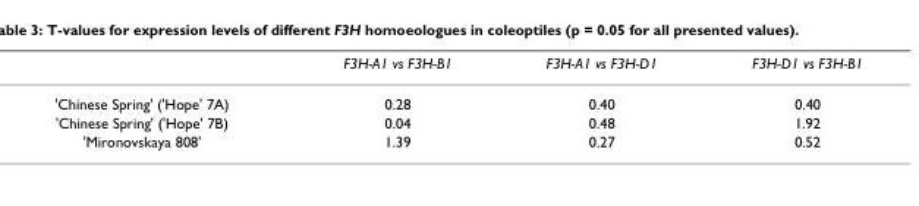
<table><thead><tr><td></td><td>F3H-A1 vs F3H-B1</td><td>F3H-A1 vs F3H-D1</td><td>F3H-D1 vs F3H-B1</td></tr></thead><tbody><tr><td>&#x27;Chinese Spring&#x27; (&#x27;Hope&#x27; 7A)</td><td>0.28</td><td>0.40</td><td>0.40</td></tr><tr><td>&#x27;Chinese Spring&#x27; (&#x27;Hope&#x27; 7B)</td><td>0.04</td><td>0.48</td><td>1.92</td></tr><tr><td>&#x27;Mironovskaya 808&#x27;</td><td>1.39</td><td>0.27</td><td>0.52</td></tr></tbody></table>